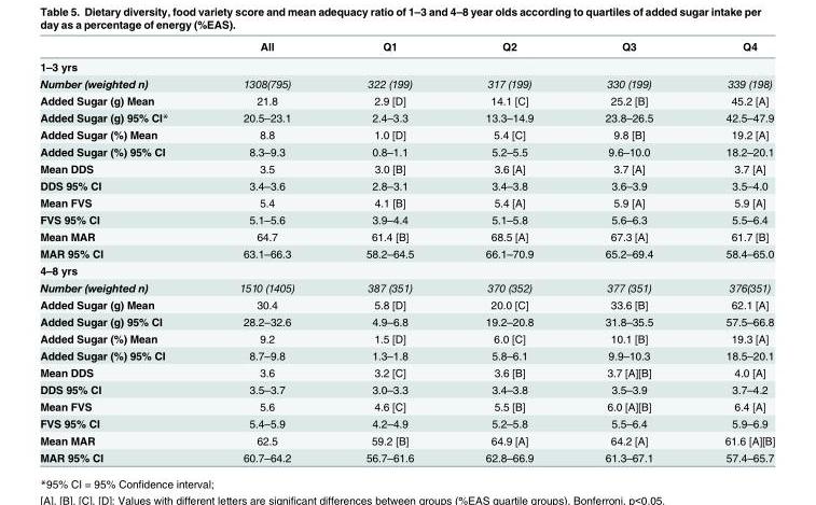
<table><thead><tr><td></td><td>All</td><td>Q1</td><td>Q2</td><td>Q3</td><td>Q4</td></tr></thead><tbody><tr><td colspan="6">1–3 yrs</td></tr><tr><td>Number (weighted n)</td><td>1308(795)</td><td>322 (199)</td><td>317 (199)</td><td>330 (199)</td><td>339 (198)</td></tr><tr><td>Added Sugar (g) Mean</td><td>21.8</td><td>2.9 [D]</td><td>14.1 [C]</td><td>25.2 [B]</td><td>45.2 [A]</td></tr><tr><td>Added Sugar (g) 95% CI*</td><td>20.5–23.1</td><td>2.4–3.3</td><td>13.3–14.9</td><td>23.8–26.5</td><td>42.5–47.9</td></tr><tr><td>Added Sugar (%) Mean</td><td>8.8</td><td>1.0 [D]</td><td>5.4 [C]</td><td>9.8 [B]</td><td>19.2 [A]</td></tr><tr><td>Added Sugar (%) 95% CI</td><td>8.3–9.3</td><td>0.8–1.1</td><td>5.2–5.5</td><td>9.6–10.0</td><td>18.2–20.1</td></tr><tr><td>Mean DDS</td><td>3.5</td><td>3.0 [B]</td><td>3.6 [A]</td><td>3.7 [A]</td><td>3.7 [A]</td></tr><tr><td>DDS 95% CI</td><td>3.4–3.6</td><td>2.8–3.1</td><td>3.4–3.8</td><td>3.6–3.9</td><td>3.5–4.0</td></tr><tr><td>Mean FVS</td><td>5.4</td><td>4.1 [B]</td><td>5.4 [A]</td><td>5.9 [A]</td><td>5.9 [A]</td></tr><tr><td>FVS 95% CI</td><td>5.1–5.6</td><td>3.9–4.4</td><td>5.1–5.8</td><td>5.6–6.3</td><td>5.5–6.4</td></tr><tr><td>Mean MAR</td><td>64.7</td><td>61.4 [B]</td><td>68.5 [A]</td><td>67.3 [A]</td><td>61.7 [B]</td></tr><tr><td>MAR 95% CI</td><td>63.1–66.3</td><td>58.2–64.5</td><td>66.1–70.9</td><td>65.2–69.4</td><td>58.4–65.0</td></tr><tr><td colspan="6">4–8 yrs</td></tr><tr><td>Number (weighted n)</td><td>1510 (1405)</td><td>387 (351)</td><td>370 (352)</td><td>377 (351)</td><td>376(351)</td></tr><tr><td>Added Sugar (g) Mean</td><td>30.4</td><td>5.8 [D]</td><td>20.0 [C]</td><td>33.6 [B]</td><td>62.1 [A]</td></tr><tr><td>Added Sugar (g) 95% CI</td><td>28.2–32.6</td><td>4.9–6.8</td><td>19.2–20.8</td><td>31.8–35.5</td><td>57.5–66.8</td></tr><tr><td>Added Sugar (%) Mean</td><td>9.2</td><td>1.5 [D]</td><td>6.0 [C]</td><td>10.1 [B]</td><td>19.3 [A]</td></tr><tr><td>Added Sugar (%) 95% CI</td><td>8.7–9.8</td><td>1.3–1.8</td><td>5.8–6.1</td><td>9.9–10.3</td><td>18.5–20.1</td></tr><tr><td>Mean DDS</td><td>3.6</td><td>3.2 [C]</td><td>3.6 [B]</td><td>3.7 [A][B]</td><td>4.0 [A]</td></tr><tr><td>DDS 95% CI</td><td>3.5–3.7</td><td>3.0–3.3</td><td>3.4–3.8</td><td>3.5–3.9</td><td>3.7–4.2</td></tr><tr><td>Mean FVS</td><td>5.6</td><td>4.6 [C]</td><td>5.5 [B]</td><td>6.0 [A][B]</td><td>6.4 [A]</td></tr><tr><td>FVS 95% CI</td><td>5.4–5.9</td><td>4.2–4.9</td><td>5.2–5.8</td><td>5.5–6.4</td><td>5.9–6.9</td></tr><tr><td>Mean MAR</td><td>62.5</td><td>59.2 [B]</td><td>64.9 [A]</td><td>64.2 [A]</td><td>61.6 [A][B]</td></tr><tr><td>MAR 95% CI</td><td>60.7–64.2</td><td>56.7–61.6</td><td>62.8–66.9</td><td>61.3–67.1</td><td>57.4–65.7</td></tr></tbody></table>